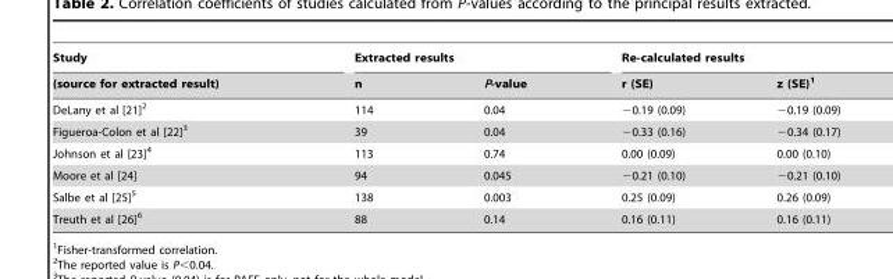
<table><thead><tr><td rowspan="2">Study (source for extracted result)</td><td colspan="2">Extracted results</td><td colspan="2">Re-calculated results</td></tr><tr><td>n</td><td>P-value</td><td>r (SE)</td><td>z (SE)<sup>1</sup></td></tr></thead><tbody><tr><td>DeLany et al [21]2</td><td>114</td><td>0.04</td><td>−0.19 (0.09)</td><td>−0.19 (0.09)</td></tr><tr><td>Figueroa-Colon et al [22]3</td><td>39</td><td>0.04</td><td>−0.33 (0.16)</td><td>−0.34 (0.17)</td></tr><tr><td>Johnson et al [23]4</td><td>113</td><td>0.74</td><td>0.00 (0.09)</td><td>0.00 (0.10)</td></tr><tr><td>Moore et al [24]</td><td>94</td><td>0.045</td><td>−0.21 (0.10)</td><td>−0.21 (0.10)</td></tr><tr><td>Salbe et al [25]5</td><td>138</td><td>0.003</td><td>0.25 (0.09)</td><td>0.26 (0.09)</td></tr><tr><td>Treuth et al [26]6</td><td>88</td><td>0.14</td><td>0.16 (0.11)</td><td>0.16 (0.11)</td></tr></tbody></table>